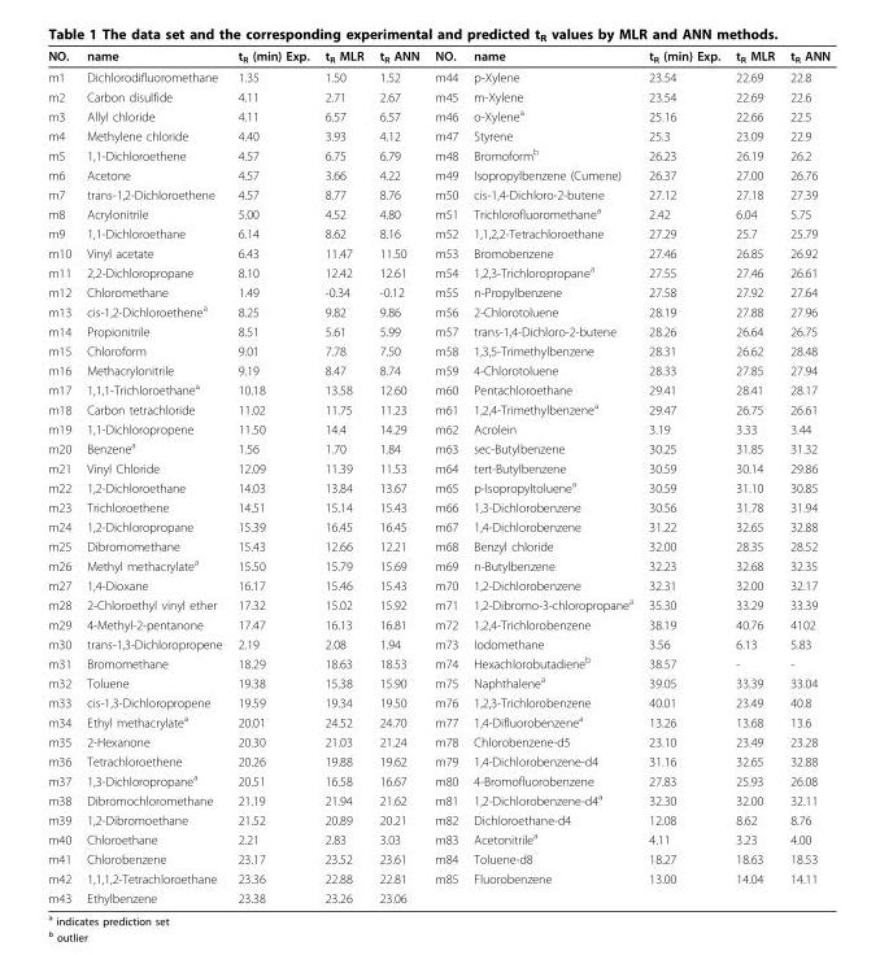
<table><thead><tr><td>NO.</td><td>name</td><td>t<sub>R</sub> (min) Exp.</td><td>t<sub>R</sub> MLR</td><td>t<sub>R</sub> ANN</td><td>NO.</td><td>name</td><td>t<sub>R</sub> (min) Exp.</td><td>t<sub>R</sub> MLR</td><td>t<sub>R</sub> ANN</td></tr></thead><tbody><tr><td>m1</td><td>Dichlorodifluoromethane</td><td>1.35</td><td>1.50</td><td>1.52</td><td>m44</td><td>p-Xylene</td><td>23.54</td><td>22.69</td><td>22.8</td></tr><tr><td>m2</td><td>Carbon disulfide</td><td>4.11</td><td>2.71</td><td>2.67</td><td>m45</td><td>m-Xylene</td><td>23.54</td><td>22.69</td><td>22.6</td></tr><tr><td>m3</td><td>Allyl chloride</td><td>4.11</td><td>6.57</td><td>6.57</td><td>m46</td><td>o-Xylene<sup>a</sup></td><td>25.16</td><td>22.66</td><td>22.5</td></tr><tr><td>m4</td><td>Methylene chloride</td><td>4.40</td><td>3.93</td><td>4.12</td><td>m47</td><td>Styrene</td><td>25.3</td><td>23.09</td><td>22.9</td></tr><tr><td>m5</td><td>1,1-Dichloroethene</td><td>4.57</td><td>6.75</td><td>6.79</td><td>m48</td><td>Bromoform<sup>b</sup></td><td>26.23</td><td>26.19</td><td>26.2</td></tr><tr><td>m6</td><td>Acetone</td><td>4.57</td><td>3.66</td><td>4.22</td><td>m49</td><td>Isopropylbenzene (Cumene)</td><td>26.37</td><td>27.00</td><td>26.76</td></tr><tr><td>m7</td><td>trans-1,2-Dichloroethene</td><td>4.57</td><td>8.77</td><td>8.76</td><td>m50</td><td>cis-1,4-Dichloro-2-butene</td><td>27.12</td><td>27.18</td><td>27.39</td></tr><tr><td>m8</td><td>Acrylonitrile</td><td>5.00</td><td>4.52</td><td>4.80</td><td>m51</td><td>Trichlorofluoromethane<sup>a</sup></td><td>2.42</td><td>6.04</td><td>5.75</td></tr><tr><td>m9</td><td>1,1-Dichloroethane</td><td>6.14</td><td>8.62</td><td>8.16</td><td>m52</td><td>1,1,2,2-Tetrachloroethane</td><td>27.29</td><td>25.7</td><td>25.79</td></tr><tr><td>m10</td><td>Vinyl acetate</td><td>6.43</td><td>11.47</td><td>11.50</td><td>m53</td><td>Bromobenzene</td><td>27.46</td><td>26.85</td><td>26.92</td></tr><tr><td>m11</td><td>2,2-Dichloropropane</td><td>8.10</td><td>12.42</td><td>12.61</td><td>m54</td><td>1,2,3-Trichloropropane<sup>a</sup></td><td>27.55</td><td>27.46</td><td>26.61</td></tr><tr><td>m12</td><td>Chloromethane</td><td>1.49</td><td>-0.34</td><td>-0.12</td><td>m55</td><td>n-Propylbenzene</td><td>27.58</td><td>27.92</td><td>27.64</td></tr><tr><td>m13</td><td>cis-1,2-Dichloroethene<sup>a</sup></td><td>8.25</td><td>9.82</td><td>9.86</td><td>m56</td><td>2-Chlorotoluene</td><td>28.19</td><td>27.88</td><td>27.96</td></tr><tr><td>m14</td><td>Propionitrile</td><td>8.51</td><td>5.61</td><td>5.99</td><td>m57</td><td>trans-1,4-Dichloro-2-butene</td><td>28.26</td><td>26.64</td><td>26.75</td></tr><tr><td>m15</td><td>Chloroform</td><td>9.01</td><td>7.78</td><td>7.50</td><td>m58</td><td>1,3,5-Trimethylbenzene</td><td>28.31</td><td>26.62</td><td>28.48</td></tr><tr><td>m16</td><td>Methacrylonitrile</td><td>9.19</td><td>8.47</td><td>8.74</td><td>m59</td><td>4-Chlorotoluene</td><td>28.33</td><td>27.85</td><td>27.94</td></tr><tr><td>m17</td><td>1,1,1-Trichloroethane<sup>a</sup></td><td>10.18</td><td>13.58</td><td>12.60</td><td>m60</td><td>Pentachloroethane</td><td>29.41</td><td>28.41</td><td>28.17</td></tr><tr><td>m18</td><td>Carbon tetrachloride</td><td>11.02</td><td>11.75</td><td>11.23</td><td>m61</td><td>1,2,4-Trimethylbenzene<sup>a</sup></td><td>29.47</td><td>26.75</td><td>26.61</td></tr><tr><td>m19</td><td>1,1-Dichloropropene</td><td>11.50</td><td>14.4</td><td>14.29</td><td>m62</td><td>Acrolein</td><td>3.19</td><td>3.33</td><td>3.44</td></tr><tr><td>m20</td><td>Benzene<sup>a</sup></td><td>1.56</td><td>1.70</td><td>1.84</td><td>m63</td><td>sec-Butylbenzene</td><td>30.25</td><td>31.85</td><td>31.32</td></tr><tr><td>m21</td><td>Vinyl Chloride</td><td>12.09</td><td>11.39</td><td>11.53</td><td>m64</td><td>tert-Butylbenzene</td><td>30.59</td><td>30.14</td><td>29.86</td></tr><tr><td>m22</td><td>1,2-Dichloroethane</td><td>14.03</td><td>13.84</td><td>13.67</td><td>m65</td><td>p-Isopropyltoluene<sup>a</sup></td><td>30.59</td><td>31.10</td><td>30.85</td></tr><tr><td>m23</td><td>Trichloroethene</td><td>14.51</td><td>15.14</td><td>15.43</td><td>m66</td><td>1,3-Dichlorobenzene</td><td>30.56</td><td>31.78</td><td>31.94</td></tr><tr><td>m24</td><td>1,2-Dichloropropane</td><td>15.39</td><td>16.45</td><td>16.45</td><td>m67</td><td>1,4-Dichlorobenzene</td><td>31.22</td><td>32.65</td><td>32.88</td></tr><tr><td>m25</td><td>Dibromomethane</td><td>15.43</td><td>12.66</td><td>12.21</td><td>m68</td><td>Benzyl chloride</td><td>32.00</td><td>28.35</td><td>28.52</td></tr><tr><td>m26</td><td>Methyl methacrylate<sup>a</sup></td><td>15.50</td><td>15.79</td><td>15.69</td><td>m69</td><td>n-Butylbenzene</td><td>32.23</td><td>32.68</td><td>32.35</td></tr><tr><td>m27</td><td>1,4-Dioxane</td><td>16.17</td><td>15.46</td><td>15.43</td><td>m70</td><td>1,2-Dichlorobenzene</td><td>32.31</td><td>32.00</td><td>32.17</td></tr><tr><td>m28</td><td>2-Chloroethyl vinyl ether</td><td>17.32</td><td>15.02</td><td>15.92</td><td>m71</td><td>1,2-Dibromo-3-chloropropane<sup>a</sup></td><td>35.30</td><td>33.29</td><td>33.39</td></tr><tr><td>m29</td><td>4-Methyl-2-pentanone</td><td>17.47</td><td>16.13</td><td>16.81</td><td>m72</td><td>1,2,4-Trichlorobenzene</td><td>38.19</td><td>40.76</td><td>4102</td></tr><tr><td>m30</td><td>trans-1,3-Dichloropropene</td><td>2.19</td><td>2.08</td><td>1.94</td><td>m73</td><td>Iodomethane</td><td>3.56</td><td>6.13</td><td>5.83</td></tr><tr><td>m31</td><td>Bromomethane</td><td>18.29</td><td>18.63</td><td>18.53</td><td>m74</td><td>Hexachlorobutadiene<sup>b</sup></td><td>38.57</td><td>-</td><td>-</td></tr><tr><td>m32</td><td>Toluene</td><td>19.38</td><td>15.38</td><td>15.90</td><td>m75</td><td>Naphthalene<sup>a</sup></td><td>39.05</td><td>33.39</td><td>33.04</td></tr><tr><td>m33</td><td>cis-1,3-Dichloropropene</td><td>19.59</td><td>19.34</td><td>19.50</td><td>m76</td><td>1,2,3-Trichlorobenzene</td><td>40.01</td><td>23.49</td><td>40.8</td></tr><tr><td>m34</td><td>Ethyl methacrylate<sup>a</sup></td><td>20.01</td><td>24.52</td><td>24.70</td><td>m77</td><td>1,4-Difluorobenzene<sup>a</sup></td><td>13.26</td><td>13.68</td><td>13.6</td></tr><tr><td>m35</td><td>2-Hexanone</td><td>20.30</td><td>21.03</td><td>21.24</td><td>m78</td><td>Chlorobenzene-d5</td><td>23.10</td><td>23.49</td><td>23.28</td></tr><tr><td>m36</td><td>Tetrachloroethene</td><td>20.26</td><td>19.88</td><td>19.62</td><td>m79</td><td>1,4-Dichlorobenzene-d4</td><td>31.16</td><td>32.65</td><td>32.88</td></tr><tr><td>m37</td><td>1,3-Dichloropropane<sup>a</sup></td><td>20.51</td><td>16.58</td><td>16.67</td><td>m80</td><td>4-Bromofluorobenzene</td><td>27.83</td><td>25.93</td><td>26.08</td></tr><tr><td>m38</td><td>Dibromochloromethane</td><td>21.19</td><td>21.94</td><td>21.62</td><td>m81</td><td>1,2-Dichlorobenzene-d4<sup>a</sup></td><td>32.30</td><td>32.00</td><td>32.11</td></tr><tr><td>m39</td><td>1,2-Dibromoethane</td><td>21.52</td><td>20.89</td><td>20.21</td><td>m82</td><td>Dichloroethane-d4</td><td>12.08</td><td>8.62</td><td>8.76</td></tr><tr><td>m40</td><td>Chloroethane</td><td>2.21</td><td>2.83</td><td>3.03</td><td>m83</td><td>Acetonitrile<sup>a</sup></td><td>4.11</td><td>3.23</td><td>4.00</td></tr><tr><td>m41</td><td>Chlorobenzene</td><td>23.17</td><td>23.52</td><td>23.61</td><td>m84</td><td>Toluene-d8</td><td>18.27</td><td>18.63</td><td>18.53</td></tr><tr><td>m42</td><td>1,1,1,2-Tetrachloroethane</td><td>23.36</td><td>22.88</td><td>22.81</td><td>m85</td><td>Fluorobenzene</td><td>13.00</td><td>14.04</td><td>14.11</td></tr><tr><td>m43</td><td>Ethylbenzene</td><td>23.38</td><td>23.26</td><td>23.06</td><td></td><td></td><td></td><td></td><td></td></tr></tbody></table>